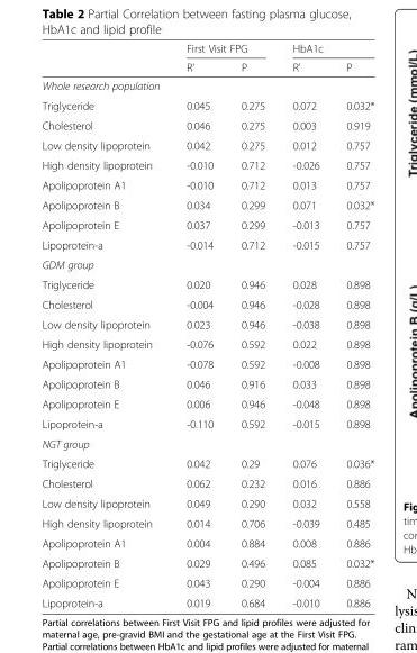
<table><thead><tr><td rowspan="2"></td><td colspan="2">First Visit FPG</td><td colspan="2">HbA1c</td></tr><tr><td>R&#x27;</td><td>P</td><td>R&#x27;</td><td>P</td></tr></thead><tbody><tr><td colspan="5">Whole research population</td></tr><tr><td>Triglyceride</td><td>0.045</td><td>0.275</td><td>0.072</td><td>0.032*</td></tr><tr><td>Cholesterol</td><td>0.046</td><td>0.275</td><td>0.003</td><td>0.919</td></tr><tr><td>Low density lipoprotein</td><td>0.042</td><td>0.275</td><td>0.012</td><td>0.757</td></tr><tr><td>High density lipoprotein</td><td>-0.010</td><td>0.712</td><td>-0.026</td><td>0.757</td></tr><tr><td>Apolipoprotein A1</td><td>-0.010</td><td>0.712</td><td>0.013</td><td>0.757</td></tr><tr><td>Apolipoprotein B</td><td>0.034</td><td>0.299</td><td>0.071</td><td>0.032*</td></tr><tr><td>Apolipoprotein E</td><td>0.037</td><td>0.299</td><td>-0.013</td><td>0.757</td></tr><tr><td>Lipoprotein-a</td><td>-0.014</td><td>0.712</td><td>-0.015</td><td>0.757</td></tr><tr><td colspan="5">GDM group</td></tr><tr><td>Triglyceride</td><td>0.020</td><td>0.946</td><td>0.028</td><td>0.898</td></tr><tr><td>Cholesterol</td><td>-0.004</td><td>0.946</td><td>-0.028</td><td>0.898</td></tr><tr><td>Low density lipoprotein</td><td>0.023</td><td>0.946</td><td>-0.038</td><td>0.898</td></tr><tr><td>High density lipoprotein</td><td>-0.076</td><td>0.592</td><td>0.022</td><td>0.898</td></tr><tr><td>Apolipoprotein A1</td><td>-0.078</td><td>0.592</td><td>-0.008</td><td>0.898</td></tr><tr><td>Apolipoprotein B</td><td>0.046</td><td>0.916</td><td>0.033</td><td>0.898</td></tr><tr><td>Apolipoprotein E</td><td>0.006</td><td>0.946</td><td>-0.048</td><td>0.898</td></tr><tr><td>Lipoprotein-a</td><td>-0.110</td><td>0.592</td><td>-0.015</td><td>0.898</td></tr><tr><td colspan="5">NGT group</td></tr><tr><td>Triglyceride</td><td>0.042</td><td>0.29</td><td>0.076</td><td>0.036*</td></tr><tr><td>Cholesterol</td><td>0.062</td><td>0.232</td><td>0.016</td><td>0.886</td></tr><tr><td>Low density lipoprotein</td><td>0.049</td><td>0.290</td><td>0.032</td><td>0.558</td></tr><tr><td>High density lipoprotein</td><td>0.014</td><td>0.706</td><td>-0.039</td><td>0.485</td></tr><tr><td>Apolipoprotein A1</td><td>0.004</td><td>0.884</td><td>0.008</td><td>0.886</td></tr><tr><td>Apolipoprotein B</td><td>0.029</td><td>0.496</td><td>0.085</td><td>0.032*</td></tr><tr><td>Apolipoprotein E</td><td>0.043</td><td>0.290</td><td>-0.004</td><td>0.886</td></tr><tr><td>Lipoprotein-a</td><td>0.019</td><td>0.684</td><td>-0.010</td><td>0.886</td></tr></tbody></table>